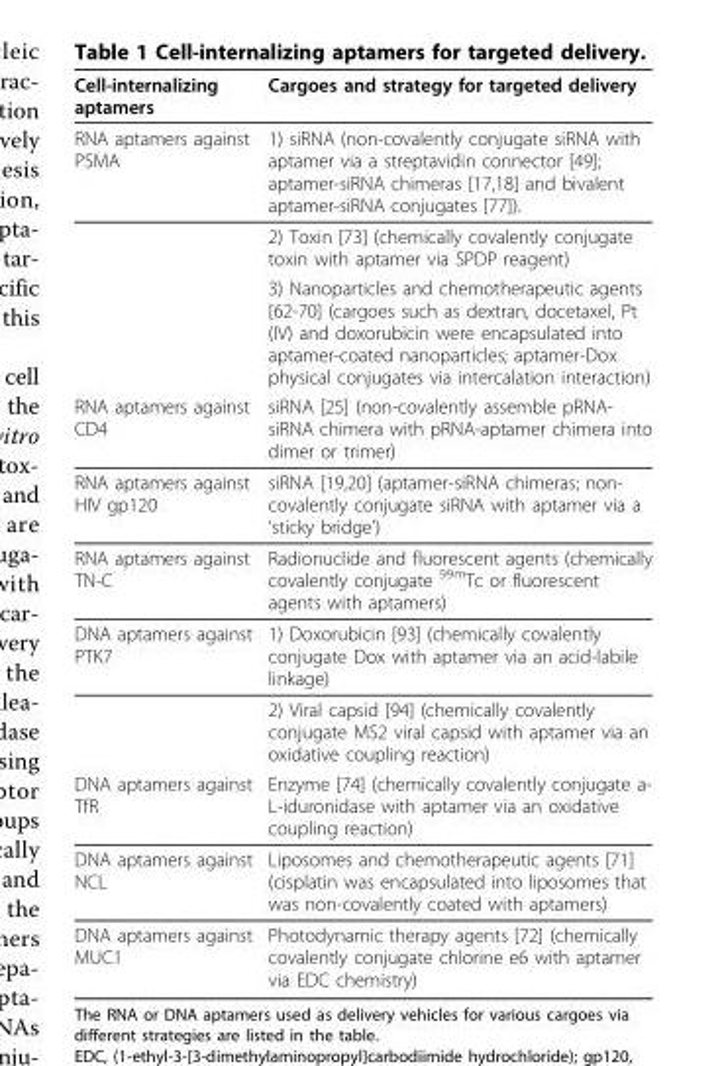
<table><thead><tr><td>Cell-internalizing aptamers</td><td>Cargoes and strategy for targeted delivery</td></tr></thead><tbody><tr><td rowspan="3">RNA aptamers against PSMA</td><td>1) siRNA (non-covalently conjugate siRNA with aptamer via a streptavidin connector [49]; aptamer-siRNA chimeras [17,18] and bivalent aptamer-siRNA conjugates [77]).</td></tr><tr><td>2) Toxin [73] (chemically covalently conjugate toxin with aptamer via SPDP reagent)</td></tr><tr><td>3) Nanoparticles and chemotherapeutic agents [62-70] (cargoes such as dextran, docetaxel, Pt (IV) and doxorubicin were encapsulated into aptamer-coated nanoparticles; aptamer-Dox physical conjugates via intercalation interaction)</td></tr><tr><td>RNA aptamers against CD4</td><td>siRNA [25] (non-covalently assemble pRNA- siRNA chimera with pRNA-aptamer chimera into dimer or trimer)</td></tr><tr><td>RNA aptamers against HIV gp120</td><td>siRNA [19,20] (aptamer-siRNA chimeras; non- covalently conjugate siRNA with aptamer via a ‘sticky bridge’)</td></tr><tr><td>RNA aptamers against TN-C</td><td>Radionuclide and fluorescent agents (chemically covalently conjugate <sup>99m</sup>Tc or fluorescent agents with aptamers)</td></tr><tr><td rowspan="2">DNA aptamers against PTK7</td><td>1) Doxorubicin [93] (chemically covalently conjugate Dox with aptamer via an acid-labile linkage)</td></tr><tr><td>2) Viral capsid [94] (chemically covalently conjugate MS2 viral capsid with aptamer via an oxidative coupling reaction)</td></tr><tr><td>DNA aptamers against TfR</td><td>Enzyme [74] (chemically covalently conjugate a- L-iduronidase with aptamer via an oxidative coupling reaction)</td></tr><tr><td>DNA aptamers against NCL</td><td>Liposomes and chemotherapeutic agents [71] (cisplatin was encapsulated into liposomes that was non-covalently coated with aptamers)</td></tr><tr><td>DNA aptamers against MUC1</td><td>Photodynamic therapy agents [72] (chemically covalently conjugate chlorine e6 with aptamer via EDC chemistry)</td></tr></tbody></table>